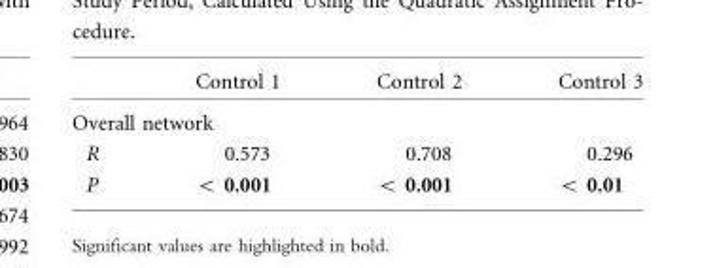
<table><thead><tr><td></td><td>Control 1</td><td>Control 2</td><td>Control 3</td></tr></thead><tbody><tr><td colspan="4">Overall network</td></tr><tr><td>R</td><td>0.573</td><td>0.708</td><td>0.296</td></tr><tr><td>P</td><td>&lt; 0.001</td><td>&lt; 0.001</td><td>&lt; 0.01</td></tr></tbody></table>